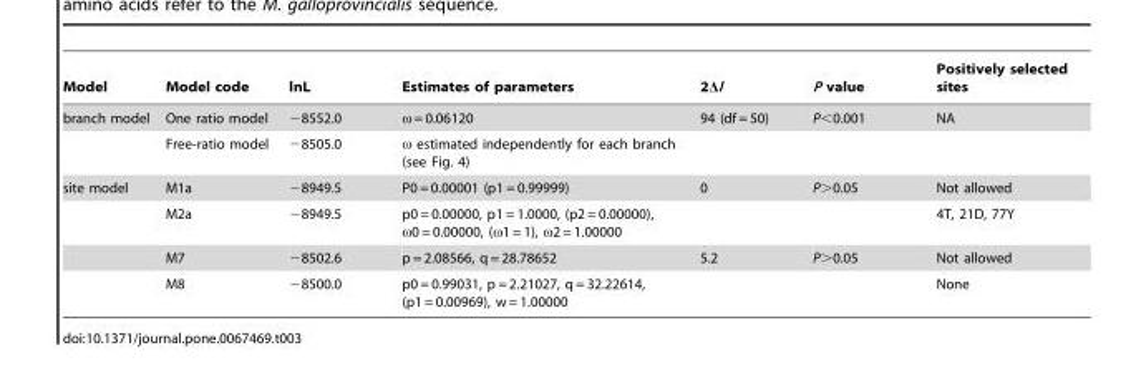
<table><thead><tr><td>Model</td><td>Model code</td><td>lnL</td><td>Estimates of parameters</td><td>2Δl</td><td>P value</td><td>Positively selected sites</td></tr></thead><tbody><tr><td rowspan="2">branch model</td><td>One ratio model</td><td>−8552.0</td><td>ω = 0.06120</td><td>94 (df = 50)</td><td>P&lt;0.001</td><td>NA</td></tr><tr><td>Free-ratio model</td><td>−8505.0</td><td>ω estimated independently for each branch (see Fig. 4)</td><td></td><td></td><td></td></tr><tr><td rowspan="4">site model</td><td>M1a</td><td>−8949.5</td><td>P0 = 0.00001 (p1 = 0.99999)</td><td>0</td><td>P&gt;0.05</td><td>Not allowed</td></tr><tr><td>M2a</td><td>−8949.5</td><td>p0 = 0.00000, p1 = 1.0000, (p2 = 0.00000), ω0 = 0.00000, (ω1 = 1), ω2 = 1.00000</td><td></td><td></td><td>4T, 21D, 77Y</td></tr><tr><td>M7</td><td>−8502.6</td><td>p = 2.08566, q = 28.78652</td><td>5.2</td><td>P&gt;0.05</td><td>Not allowed</td></tr><tr><td>M8</td><td>−8500.0</td><td>p0 = 0.99031, p = 2.21027, q = 32.22614, (p1 = 0.00969), w = 1.00000</td><td></td><td></td><td>None</td></tr></tbody></table>